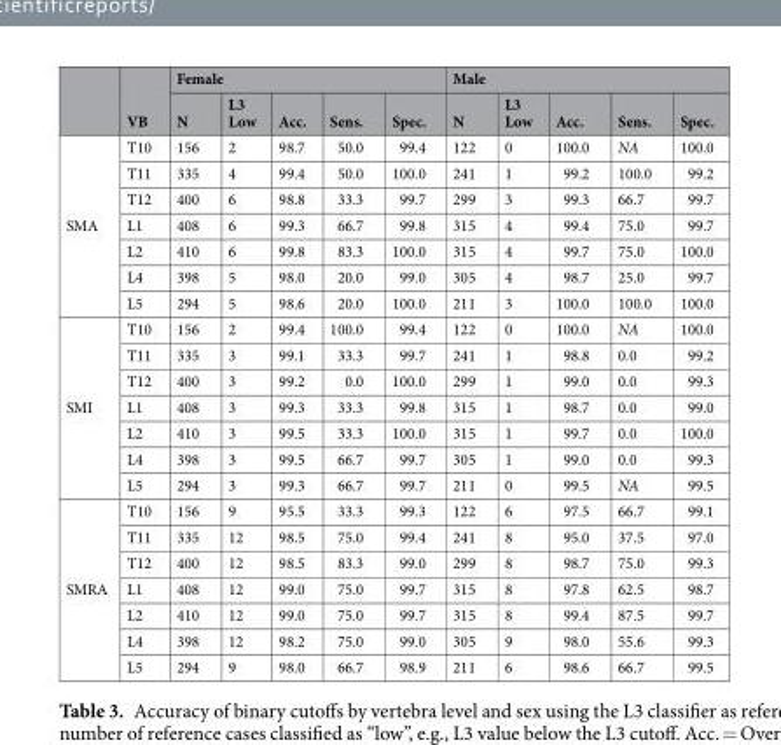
<table><thead><tr><td rowspan="2"></td><td rowspan="2">VB</td><td colspan="5">Female</td><td colspan="5">Male</td></tr><tr><td>N</td><td>L3 Low</td><td>Acc.</td><td>Sens.</td><td>Spec.</td><td>N</td><td>L3 Low</td><td>Acc.</td><td>Sens.</td><td>Spec.</td></tr></thead><tbody><tr><td rowspan="7">SMA</td><td>T10</td><td>156</td><td>2</td><td>98.7</td><td>50.0</td><td>99.4</td><td>122</td><td>0</td><td>100.0</td><td>NA</td><td>100.0</td></tr><tr><td>T11</td><td>335</td><td>4</td><td>99.4</td><td>50.0</td><td>100.0</td><td>241</td><td>1</td><td>99.2</td><td>100.0</td><td>99.2</td></tr><tr><td>T12</td><td>400</td><td>6</td><td>98.8</td><td>33.3</td><td>99.7</td><td>299</td><td>3</td><td>99.3</td><td>66.7</td><td>99.7</td></tr><tr><td>L1</td><td>408</td><td>6</td><td>99.3</td><td>66.7</td><td>99.8</td><td>315</td><td>4</td><td>99.4</td><td>75.0</td><td>99.7</td></tr><tr><td>L2</td><td>410</td><td>6</td><td>99.8</td><td>83.3</td><td>100.0</td><td>315</td><td>4</td><td>99.7</td><td>75.0</td><td>100.0</td></tr><tr><td>L4</td><td>398</td><td>5</td><td>98.0</td><td>20.0</td><td>99.0</td><td>305</td><td>4</td><td>98.7</td><td>25.0</td><td>99.7</td></tr><tr><td>L5</td><td>294</td><td>5</td><td>98.6</td><td>20.0</td><td>100.0</td><td>211</td><td>3</td><td>100.0</td><td>100.0</td><td>100.0</td></tr><tr><td rowspan="7">SMI</td><td>T10</td><td>156</td><td>2</td><td>99.4</td><td>100.0</td><td>99.4</td><td>122</td><td>0</td><td>100.0</td><td>NA</td><td>100.0</td></tr><tr><td>T11</td><td>335</td><td>3</td><td>99.1</td><td>33.3</td><td>99.7</td><td>241</td><td>1</td><td>98.8</td><td>0.0</td><td>99.2</td></tr><tr><td>T12</td><td>400</td><td>3</td><td>99.2</td><td>0.0</td><td>100.0</td><td>299</td><td>1</td><td>99.0</td><td>0.0</td><td>99.3</td></tr><tr><td>L1</td><td>408</td><td>3</td><td>99.3</td><td>33.3</td><td>99.8</td><td>315</td><td>1</td><td>98.7</td><td>0.0</td><td>99.0</td></tr><tr><td>L2</td><td>410</td><td>3</td><td>99.5</td><td>33.3</td><td>100.0</td><td>315</td><td>1</td><td>99.7</td><td>0.0</td><td>100.0</td></tr><tr><td>L4</td><td>398</td><td>3</td><td>99.5</td><td>66.7</td><td>99.7</td><td>305</td><td>1</td><td>99.0</td><td>0.0</td><td>99.3</td></tr><tr><td>L5</td><td>294</td><td>3</td><td>99.3</td><td>66.7</td><td>99.7</td><td>211</td><td>0</td><td>99.5</td><td>NA</td><td>99.5</td></tr><tr><td rowspan="7">SMRA</td><td>T10</td><td>156</td><td>9</td><td>95.5</td><td>33.3</td><td>99.3</td><td>122</td><td>6</td><td>97.5</td><td>66.7</td><td>99.1</td></tr><tr><td>T11</td><td>335</td><td>12</td><td>98.5</td><td>75.0</td><td>99.4</td><td>241</td><td>8</td><td>95.0</td><td>37.5</td><td>97.0</td></tr><tr><td>T12</td><td>400</td><td>12</td><td>98.5</td><td>83.3</td><td>99.0</td><td>299</td><td>8</td><td>98.7</td><td>75.0</td><td>99.3</td></tr><tr><td>L1</td><td>408</td><td>12</td><td>99.0</td><td>75.0</td><td>99.7</td><td>315</td><td>8</td><td>97.8</td><td>62.5</td><td>98.7</td></tr><tr><td>L2</td><td>410</td><td>12</td><td>99.0</td><td>75.0</td><td>99.7</td><td>315</td><td>8</td><td>99.4</td><td>87.5</td><td>99.7</td></tr><tr><td>L4</td><td>398</td><td>12</td><td>98.2</td><td>75.0</td><td>99.0</td><td>305</td><td>9</td><td>98.0</td><td>55.6</td><td>99.3</td></tr><tr><td>L5</td><td>294</td><td>9</td><td>98.0</td><td>66.7</td><td>98.9</td><td>211</td><td>6</td><td>98.6</td><td>66.7</td><td>99.5</td></tr></tbody></table>